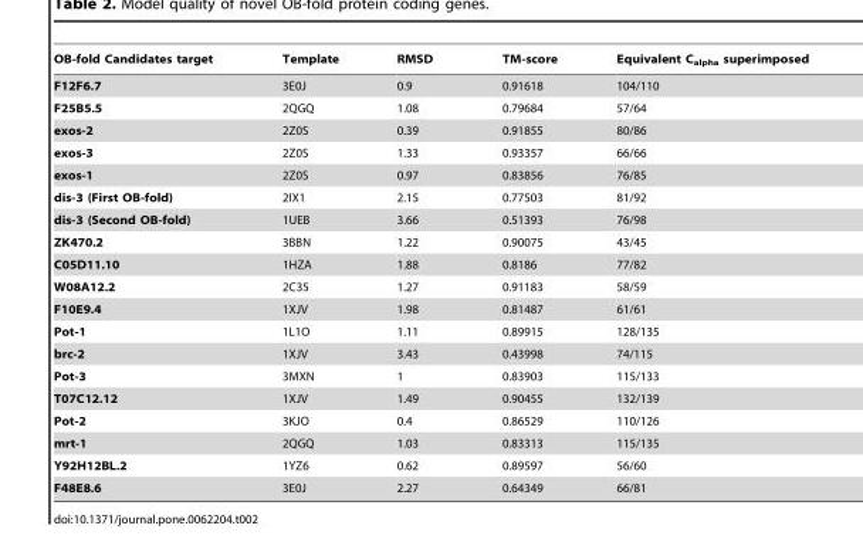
<table><thead><tr><td>OB-fold Candidates target</td><td>Template</td><td>RMSD</td><td>TM-score</td><td>Equivalent C<sub>alpha</sub> superimposed</td></tr></thead><tbody><tr><td>F12F6.7</td><td>3E0J</td><td>0.9</td><td>0.91618</td><td>104/110</td></tr><tr><td>F25B5.5</td><td>2QGQ</td><td>1.08</td><td>0.79684</td><td>57/64</td></tr><tr><td>exos-2</td><td>2Z0S</td><td>0.39</td><td>0.91855</td><td>80/86</td></tr><tr><td>exos-3</td><td>2Z0S</td><td>1.33</td><td>0.93357</td><td>66/66</td></tr><tr><td>exos-1</td><td>2Z0S</td><td>0.97</td><td>0.83856</td><td>76/85</td></tr><tr><td>dis-3 (First OB-fold)</td><td>2IX1</td><td>2.15</td><td>0.77503</td><td>81/92</td></tr><tr><td>dis-3 (Second OB-fold)</td><td>1UEB</td><td>3.66</td><td>0.51393</td><td>76/98</td></tr><tr><td>ZK470.2</td><td>3BBN</td><td>1.22</td><td>0.90075</td><td>43/45</td></tr><tr><td>C05D11.10</td><td>1HZA</td><td>1.88</td><td>0.8186</td><td>77/82</td></tr><tr><td>W08A12.2</td><td>2C35</td><td>1.27</td><td>0.91183</td><td>58/59</td></tr><tr><td>F10E9.4</td><td>1XJV</td><td>1.98</td><td>0.81487</td><td>61/61</td></tr><tr><td>Pot-1</td><td>1L1O</td><td>1.11</td><td>0.89915</td><td>128/135</td></tr><tr><td>brc-2</td><td>1XJV</td><td>3.43</td><td>0.43998</td><td>74/115</td></tr><tr><td>Pot-3</td><td>3MXN</td><td>1</td><td>0.83903</td><td>115/133</td></tr><tr><td>T07C12.12</td><td>1XJV</td><td>1.49</td><td>0.90455</td><td>132/139</td></tr><tr><td>Pot-2</td><td>3KJO</td><td>0.4</td><td>0.86529</td><td>110/126</td></tr><tr><td>mrt-1</td><td>2QGQ</td><td>1.03</td><td>0.83313</td><td>115/135</td></tr><tr><td>Y92H12BL.2</td><td>1YZ6</td><td>0.62</td><td>0.89597</td><td>56/60</td></tr><tr><td>F48E8.6</td><td>3E0J</td><td>2.27</td><td>0.64349</td><td>66/81</td></tr></tbody></table>